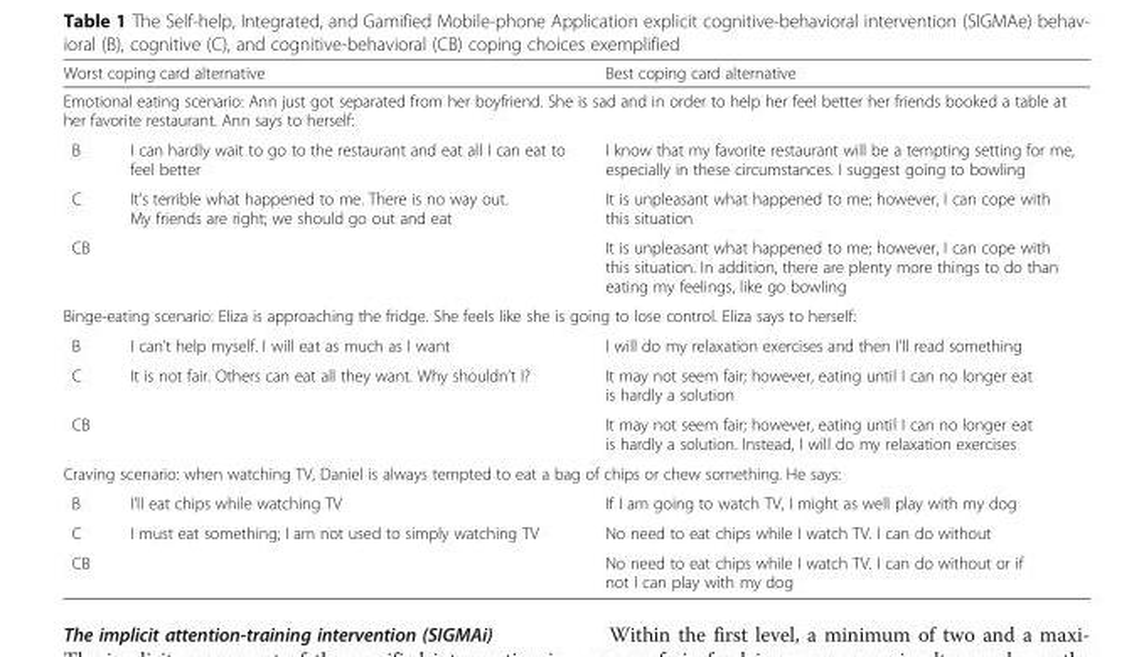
<table><thead><tr><td colspan="2">Worst coping card alternative</td><td>Best coping card alternative</td></tr><tr><td colspan="3">Emotional eating scenario: Ann just got separated from her boyfriend. She is sad and in order to help her feel better her friends booked a table at her favorite restaurant. Ann says to herself:</td></tr><tr><td>B</td><td>I can hardly wait to go to the restaurant and eat all I can eat to feel better</td><td>I know that my favorite restaurant will be a tempting setting for me, especially in these circumstances. I suggest going to bowling</td></tr></thead><tbody><tr><td>C</td><td rowspan="2">It’s terrible what happened to me. There is no way out. My friends are right; we should go out and eat</td><td>It is unpleasant what happened to me; however, I can cope with this situation</td></tr><tr><td>CB</td><td>It is unpleasant what happened to me; however, I can cope with this situation. In addition, there are plenty more things to do than eating my feelings, like go bowling</td></tr><tr><td colspan="3">Binge-eating scenario: Eliza is approaching the fridge. She feels like she is going to lose control. Eliza says to herself:</td></tr><tr><td>B</td><td>I can’t help myself. I will eat as much as I want</td><td>I will do my relaxation exercises and then I’ll read something</td></tr><tr><td>C</td><td rowspan="2">It is not fair. Others can eat all they want. Why shouldn’t I?</td><td>It may not seem fair; however, eating until I can no longer eat is hardly a solution</td></tr><tr><td>CB</td><td>It may not seem fair; however, eating until I can no longer eat is hardly a solution. Instead, I will do my relaxation exercises</td></tr><tr><td colspan="3">Craving scenario: when watching TV, Daniel is always tempted to eat a bag of chips or chew something. He says:</td></tr><tr><td>B</td><td>I’ll eat chips while watching TV</td><td>If I am going to watch TV, I might as well play with my dog</td></tr><tr><td>C</td><td rowspan="2">I must eat something; I am not used to simply watching TV</td><td>No need to eat chips while I watch TV. I can do without</td></tr><tr><td>CB</td><td>No need to eat chips while I watch TV. I can do without or if not I can play with my dog</td></tr></tbody></table>